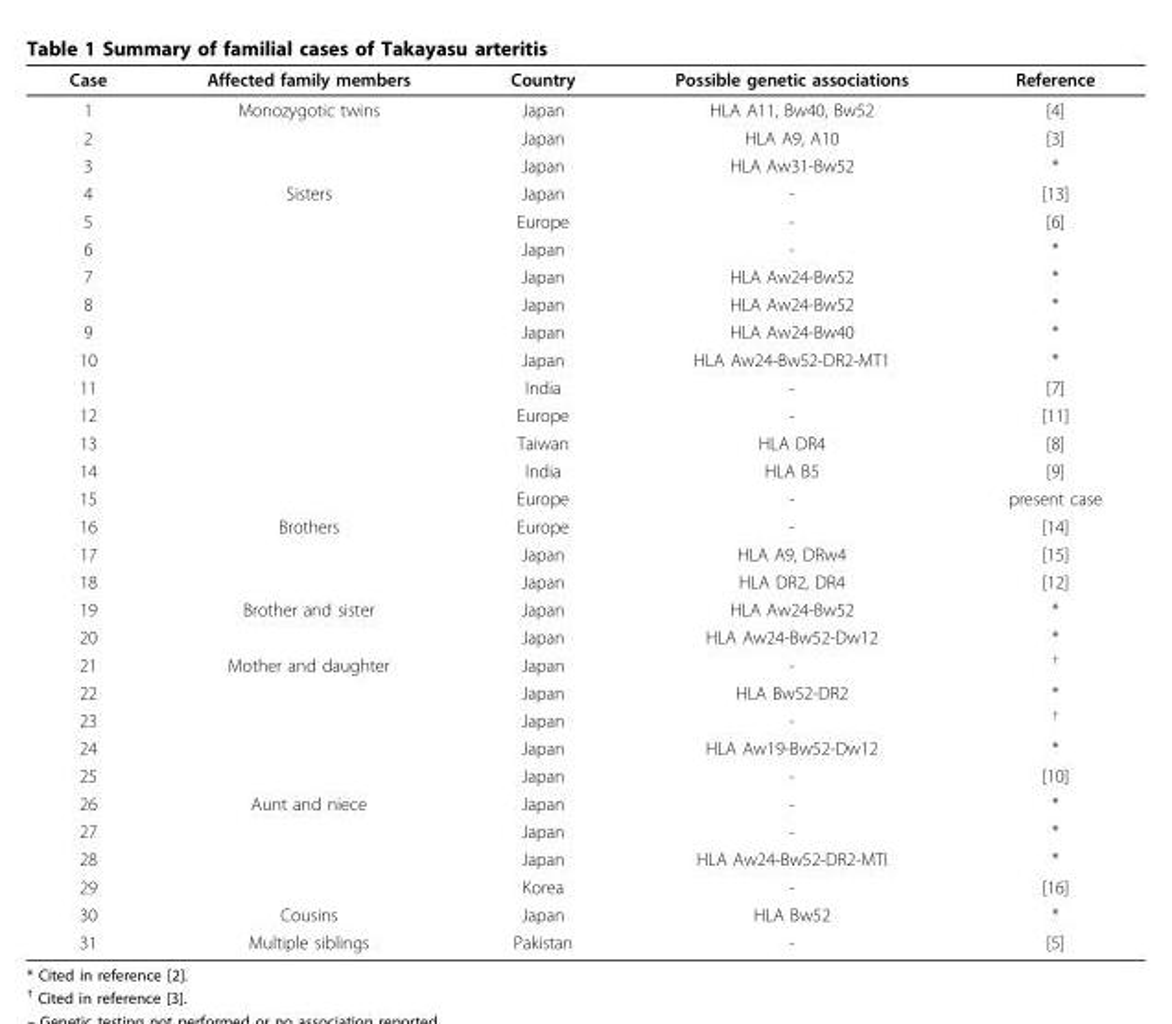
<table><thead><tr><td>Case</td><td>Affected family members</td><td>Country</td><td>Possible genetic associations</td><td>Reference</td></tr></thead><tbody><tr><td>1</td><td>Monozygotic twins</td><td>Japan</td><td>HLA A11, Bw40, Bw52</td><td>[4]</td></tr><tr><td>2</td><td></td><td>Japan</td><td>HLA A9, A10</td><td>[3]</td></tr><tr><td>3</td><td></td><td>Japan</td><td>HLA Aw31-Bw52</td><td>*</td></tr><tr><td>4</td><td>Sisters</td><td>Japan</td><td>-</td><td>[13]</td></tr><tr><td>5</td><td></td><td>Europe</td><td>-</td><td>[6]</td></tr><tr><td>6</td><td></td><td>Japan</td><td>-</td><td>*</td></tr><tr><td>7</td><td></td><td>Japan</td><td>HLA Aw24-Bw52</td><td>*</td></tr><tr><td>8</td><td></td><td>Japan</td><td>HLA Aw24-Bw52</td><td>*</td></tr><tr><td>9</td><td></td><td>Japan</td><td>HLA Aw24-Bw40</td><td>*</td></tr><tr><td>10</td><td></td><td>Japan</td><td>HLA Aw24-Bw52-DR2-MT1</td><td>*</td></tr><tr><td>11</td><td></td><td>India</td><td>-</td><td>[7]</td></tr><tr><td>12</td><td></td><td>Europe</td><td>-</td><td>[11]</td></tr><tr><td>13</td><td></td><td>Taiwan</td><td>HLA DR4</td><td>[8]</td></tr><tr><td>14</td><td></td><td>India</td><td>HLA B5</td><td>[9]</td></tr><tr><td>15</td><td></td><td>Europe</td><td>-</td><td>present case</td></tr><tr><td>16</td><td>Brothers</td><td>Europe</td><td>-</td><td>[14]</td></tr><tr><td>17</td><td></td><td>Japan</td><td>HLA A9, DRw4</td><td>[15]</td></tr><tr><td>18</td><td></td><td>Japan</td><td>HLA DR2, DR4</td><td>[12]</td></tr><tr><td>19</td><td>Brother and sister</td><td>Japan</td><td>HLA Aw24-Bw52</td><td>*</td></tr><tr><td>20</td><td></td><td>Japan</td><td>HLA Aw24-Bw52-Dw12</td><td>*</td></tr><tr><td>21</td><td>Mother and daughter</td><td>Japan</td><td>-</td><td><sup>†</sup></td></tr><tr><td>22</td><td></td><td>Japan</td><td>HLA Bw52-DR2</td><td>*</td></tr><tr><td>23</td><td></td><td>Japan</td><td>-</td><td><sup>†</sup></td></tr><tr><td>24</td><td></td><td>Japan</td><td>HLA Aw19-Bw52-Dw12</td><td>*</td></tr><tr><td>25</td><td></td><td>Japan</td><td>-</td><td>[10]</td></tr><tr><td>26</td><td>Aunt and niece</td><td>Japan</td><td>-</td><td>*</td></tr><tr><td>27</td><td></td><td>Japan</td><td>-</td><td>*</td></tr><tr><td>28</td><td></td><td>Japan</td><td>HLA Aw24-Bw52-DR2-MTI</td><td>*</td></tr><tr><td>29</td><td></td><td>Korea</td><td>-</td><td>[16]</td></tr><tr><td>30</td><td>Cousins</td><td>Japan</td><td>HLA Bw52</td><td>*</td></tr><tr><td>31</td><td>Multiple siblings</td><td>Pakistan</td><td>-</td><td>[5]</td></tr></tbody></table>